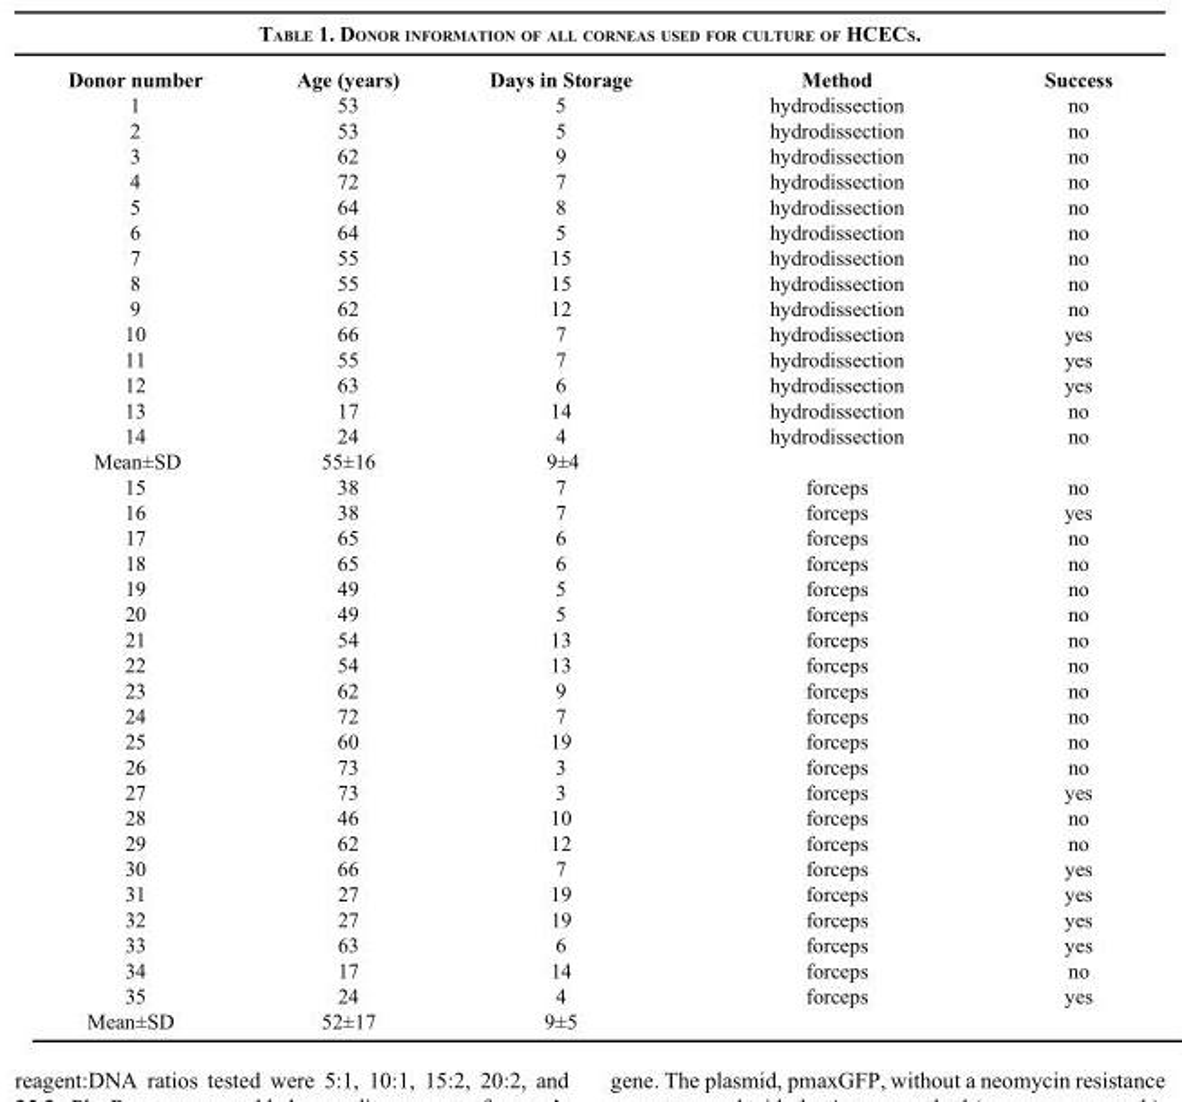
<table><thead><tr><td>Donor number</td><td>Age (years)</td><td>Days in Storage</td><td>Method</td><td>Success</td></tr></thead><tbody><tr><td>1</td><td>53</td><td>5</td><td>hydrodissection</td><td>no</td></tr><tr><td>2</td><td>53</td><td>5</td><td>hydrodissection</td><td>no</td></tr><tr><td>3</td><td>62</td><td>9</td><td>hydrodissection</td><td>no</td></tr><tr><td>4</td><td>72</td><td>7</td><td>hydrodissection</td><td>no</td></tr><tr><td>5</td><td>64</td><td>8</td><td>hydrodissection</td><td>no</td></tr><tr><td>6</td><td>64</td><td>5</td><td>hydrodissection</td><td>no</td></tr><tr><td>7</td><td>55</td><td>15</td><td>hydrodissection</td><td>no</td></tr><tr><td>8</td><td>55</td><td>15</td><td>hydrodissection</td><td>no</td></tr><tr><td>9</td><td>62</td><td>12</td><td>hydrodissection</td><td>no</td></tr><tr><td>10</td><td>66</td><td>7</td><td>hydrodissection</td><td>yes</td></tr><tr><td>11</td><td>55</td><td>7</td><td>hydrodissection</td><td>yes</td></tr><tr><td>12</td><td>63</td><td>6</td><td>hydrodissection</td><td>yes</td></tr><tr><td>13</td><td>17</td><td>14</td><td>hydrodissection</td><td>no</td></tr><tr><td>14</td><td>24</td><td>4</td><td>hydrodissection</td><td>no</td></tr><tr><td>Mean±SD</td><td>55±16</td><td>9±4</td><td></td><td></td></tr><tr><td>15</td><td>38</td><td>7</td><td>forceps</td><td>no</td></tr><tr><td>16</td><td>38</td><td>7</td><td>forceps</td><td>yes</td></tr><tr><td>17</td><td>65</td><td>6</td><td>forceps</td><td>no</td></tr><tr><td>18</td><td>65</td><td>6</td><td>forceps</td><td>no</td></tr><tr><td>19</td><td>49</td><td>5</td><td>forceps</td><td>no</td></tr><tr><td>20</td><td>49</td><td>5</td><td>forceps</td><td>no</td></tr><tr><td>21</td><td>54</td><td>13</td><td>forceps</td><td>no</td></tr><tr><td>22</td><td>54</td><td>13</td><td>forceps</td><td>no</td></tr><tr><td>23</td><td>62</td><td>9</td><td>forceps</td><td>no</td></tr><tr><td>24</td><td>72</td><td>7</td><td>forceps</td><td>no</td></tr><tr><td>25</td><td>60</td><td>19</td><td>forceps</td><td>no</td></tr><tr><td>26</td><td>73</td><td>3</td><td>forceps</td><td>no</td></tr><tr><td>27</td><td>73</td><td>3</td><td>forceps</td><td>yes</td></tr><tr><td>28</td><td>46</td><td>10</td><td>forceps</td><td>no</td></tr><tr><td>29</td><td>62</td><td>12</td><td>forceps</td><td>no</td></tr><tr><td>30</td><td>66</td><td>7</td><td>forceps</td><td>yes</td></tr><tr><td>31</td><td>27</td><td>19</td><td>forceps</td><td>yes</td></tr><tr><td>32</td><td>27</td><td>19</td><td>forceps</td><td>yes</td></tr><tr><td>33</td><td>63</td><td>6</td><td>forceps</td><td>yes</td></tr><tr><td>34</td><td>17</td><td>14</td><td>forceps</td><td>no</td></tr><tr><td>35</td><td>24</td><td>4</td><td>forceps</td><td>yes</td></tr><tr><td>Mean±SD</td><td>52±17</td><td>9±5</td><td></td><td></td></tr></tbody></table>